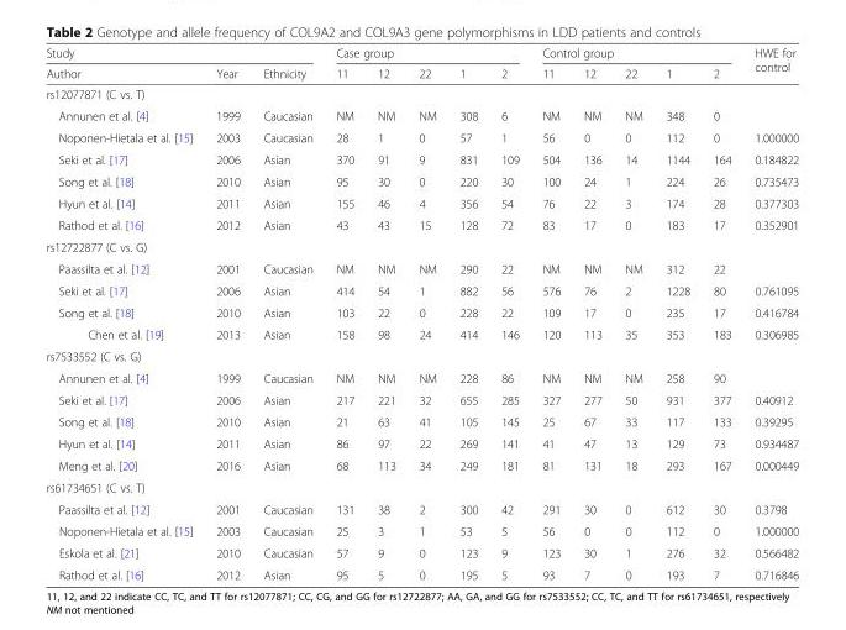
<table><thead><tr><td colspan="3">Study</td><td colspan="5">Case group</td><td colspan="5">Control group</td><td rowspan="2">HWE for control</td></tr><tr><td>Author</td><td>Year</td><td>Ethnicity</td><td>11</td><td>12</td><td>22</td><td>1</td><td>2</td><td>11</td><td>12</td><td>22</td><td>1</td><td>2</td></tr></thead><tbody><tr><td colspan="14">rs12077871 (C vs. T)</td></tr><tr><td>Annunen et al. [4]</td><td>1999</td><td>Caucasian</td><td>NM</td><td>NM</td><td>NM</td><td>308</td><td>6</td><td>NM</td><td>NM</td><td>NM</td><td>348</td><td>0</td><td></td></tr><tr><td>Noponen-Hietala et al. [15]</td><td>2003</td><td>Caucasian</td><td>28</td><td>1</td><td>0</td><td>57</td><td>1</td><td>56</td><td>0</td><td>0</td><td>112</td><td>0</td><td>1.000000</td></tr><tr><td>Seki et al. [17]</td><td>2006</td><td>Asian</td><td>370</td><td>91</td><td>9</td><td>831</td><td>109</td><td>504</td><td>136</td><td>14</td><td>1144</td><td>164</td><td>0.184822</td></tr><tr><td>Song et al. [18]</td><td>2010</td><td>Asian</td><td>95</td><td>30</td><td>0</td><td>220</td><td>30</td><td>100</td><td>24</td><td>1</td><td>224</td><td>26</td><td>0.735473</td></tr><tr><td>Hyun et al. [14]</td><td>2011</td><td>Asian</td><td>155</td><td>46</td><td>4</td><td>356</td><td>54</td><td>76</td><td>22</td><td>3</td><td>174</td><td>28</td><td>0.377303</td></tr><tr><td>Rathod et al. [16]</td><td>2012</td><td>Asian</td><td>43</td><td>43</td><td>15</td><td>128</td><td>72</td><td>83</td><td>17</td><td>0</td><td>183</td><td>17</td><td>0.352901</td></tr><tr><td colspan="14">rs12722877 (C vs. G)</td></tr><tr><td>Paassilta et al. [12]</td><td>2001</td><td>Caucasian</td><td>NM</td><td>NM</td><td>NM</td><td>290</td><td>22</td><td>NM</td><td>NM</td><td>NM</td><td>312</td><td>22</td><td></td></tr><tr><td>Seki et al. [17]</td><td>2006</td><td>Asian</td><td>414</td><td>54</td><td>1</td><td>882</td><td>56</td><td>576</td><td>76</td><td>2</td><td>1228</td><td>80</td><td>0.761095</td></tr><tr><td>Song et al. [18]</td><td>2010</td><td>Asian</td><td>103</td><td>22</td><td>0</td><td>228</td><td>22</td><td>109</td><td>17</td><td>0</td><td>235</td><td>17</td><td>0.416784</td></tr><tr><td>Chen et al. [19]</td><td>2013</td><td>Asian</td><td>158</td><td>98</td><td>24</td><td>414</td><td>146</td><td>120</td><td>113</td><td>35</td><td>353</td><td>183</td><td>0.306985</td></tr><tr><td colspan="14">rs7533552 (C vs. G)</td></tr><tr><td>Annunen et al. [4]</td><td>1999</td><td>Caucasian</td><td>NM</td><td>NM</td><td>NM</td><td>228</td><td>86</td><td>NM</td><td>NM</td><td>NM</td><td>258</td><td>90</td><td></td></tr><tr><td>Seki et al. [17]</td><td>2006</td><td>Asian</td><td>217</td><td>221</td><td>32</td><td>655</td><td>285</td><td>327</td><td>277</td><td>50</td><td>931</td><td>377</td><td>0.40912</td></tr><tr><td>Song et al. [18]</td><td>2010</td><td>Asian</td><td>21</td><td>63</td><td>41</td><td>105</td><td>145</td><td>25</td><td>67</td><td>33</td><td>117</td><td>133</td><td>0.39295</td></tr><tr><td>Hyun et al. [14]</td><td>2011</td><td>Asian</td><td>86</td><td>97</td><td>22</td><td>269</td><td>141</td><td>41</td><td>47</td><td>13</td><td>129</td><td>73</td><td>0.934487</td></tr><tr><td>Meng et al. [20]</td><td>2016</td><td>Asian</td><td>68</td><td>113</td><td>34</td><td>249</td><td>181</td><td>81</td><td>131</td><td>18</td><td>293</td><td>167</td><td>0.000449</td></tr><tr><td colspan="14">rs61734651 (C vs. T)</td></tr><tr><td>Paassilta et al. [12]</td><td>2001</td><td>Caucasian</td><td>131</td><td>38</td><td>2</td><td>300</td><td>42</td><td>291</td><td>30</td><td>0</td><td>612</td><td>30</td><td>0.3798</td></tr><tr><td>Noponen-Hietala et al. [15]</td><td>2003</td><td>Caucasian</td><td>25</td><td>3</td><td>1</td><td>53</td><td>5</td><td>56</td><td>0</td><td>0</td><td>112</td><td>0</td><td>1.000000</td></tr><tr><td>Eskola et al. [21]</td><td>2010</td><td>Caucasian</td><td>57</td><td>9</td><td>0</td><td>123</td><td>9</td><td>123</td><td>30</td><td>1</td><td>276</td><td>32</td><td>0.566482</td></tr><tr><td>Rathod et al. [16]</td><td>2012</td><td>Asian</td><td>95</td><td>5</td><td>0</td><td>195</td><td>5</td><td>93</td><td>7</td><td>0</td><td>193</td><td>7</td><td>0.716846</td></tr></tbody></table>